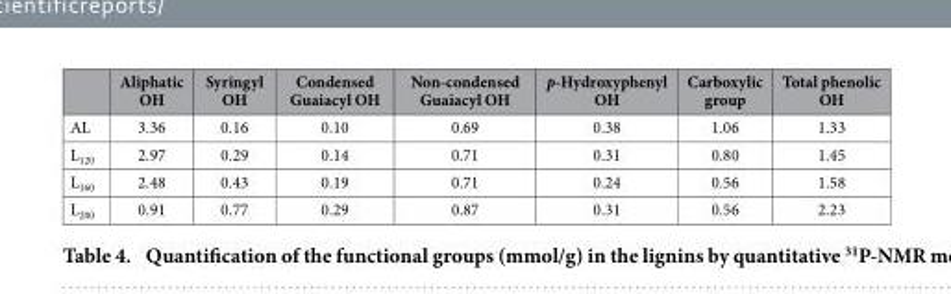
<table><thead><tr><td></td><td>Aliphatic OH</td><td>Syringyl OH</td><td>Condensed Guaiacyl OH</td><td>Non-condensed Guaiacyl OH</td><td>p-Hydroxyphenyl OH</td><td>Carboxylic group</td><td>Total phenolic OH</td></tr></thead><tbody><tr><td>AL</td><td>3.36</td><td>0.16</td><td>0.10</td><td>0.69</td><td>0.38</td><td>1.06</td><td>1.33</td></tr><tr><td>L<sub>120</sub></td><td>2.97</td><td>0.29</td><td>0.14</td><td>0.71</td><td>0.31</td><td>0.80</td><td>1.45</td></tr><tr><td>L<sub>160</sub></td><td>2.48</td><td>0.43</td><td>0.19</td><td>0.71</td><td>0.24</td><td>0.56</td><td>1.58</td></tr><tr><td>L<sub>200</sub></td><td>0.91</td><td>0.77</td><td>0.29</td><td>0.87</td><td>0.31</td><td>0.56</td><td>2.23</td></tr></tbody></table>